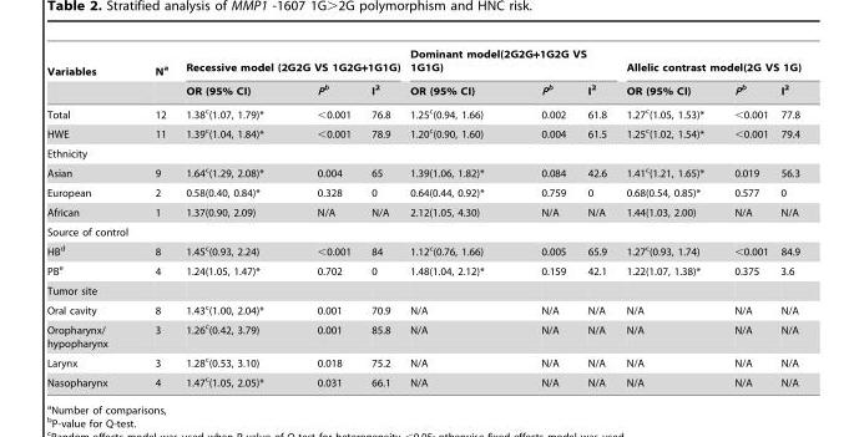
<table><thead><tr><td rowspan="2">Variables</td><td rowspan="2">N<sup>a</sup></td><td colspan="3">Recessive model (2G2G VS 1G2G+1G1G)</td><td colspan="3">Dominant model(2G2G+1G2G VS 1G1G)</td><td colspan="3">Allelic contrast model(2G VS 1G)</td></tr><tr><td>OR (95% CI)</td><td>Pb</td><td>I<sup>2</sup></td><td>OR (95% CI)</td><td>Pb</td><td>I<sup>2</sup></td><td>OR (95% CI)</td><td>Pb</td><td>I<sup>2</sup></td></tr></thead><tbody><tr><td>Total</td><td>12</td><td>1.38<sup>c</sup>(1.07, 1.79)*</td><td>&lt;0.001</td><td>76.8</td><td>1.25<sup>c</sup>(0.94, 1.66)</td><td>0.002</td><td>61.8</td><td>1.27<sup>c</sup>(1.05, 1.53)*</td><td>&lt;0.001</td><td>77.8</td></tr><tr><td>HWE</td><td>11</td><td>1.39<sup>c</sup>(1.04, 1.84)*</td><td>&lt;0.001</td><td>78.9</td><td>1.20<sup>c</sup>(0.90, 1.60)</td><td>0.004</td><td>61.5</td><td>1.25<sup>c</sup>(1.02, 1.54)*</td><td>&lt;0.001</td><td>79.4</td></tr><tr><td colspan="11">Ethnicity</td></tr><tr><td>Asian</td><td>9</td><td>1.64<sup>c</sup>(1.29, 2.08)*</td><td>0.004</td><td>65</td><td>1.39(1.06, 1.82)*</td><td>0.084</td><td>42.6</td><td>1.41<sup>c</sup>(1.21, 1.65)*</td><td>0.019</td><td>56.3</td></tr><tr><td>European</td><td>2</td><td>0.58(0.40, 0.84)*</td><td>0.328</td><td>0</td><td>0.64(0.44, 0.92)*</td><td>0.759</td><td>0</td><td>0.68(0.54, 0.85)*</td><td>0.577</td><td>0</td></tr><tr><td>African</td><td>1</td><td>1.37(0.90, 2.09)</td><td>N/A</td><td>N/A</td><td>2.12(1.05, 4.30)</td><td>N/A</td><td>N/A</td><td>1.44(1.03, 2.00)</td><td>N/A</td><td>N/A</td></tr><tr><td colspan="11">Source of control</td></tr><tr><td>HB<sup>d</sup></td><td>8</td><td>1.45<sup>c</sup>(0.93, 2.24)</td><td>&lt;0.001</td><td>84</td><td>1.12<sup>c</sup>(0.76, 1.66)</td><td>0.005</td><td>65.9</td><td>1.27<sup>c</sup>(0.93, 1.74)</td><td>&lt;0.001</td><td>84.9</td></tr><tr><td>PB<sup>e</sup></td><td>4</td><td>1.24(1.05, 1.47)*</td><td>0.702</td><td>0</td><td>1.48(1.04, 2.12)*</td><td>0.159</td><td>42.1</td><td>1.22(1.07, 1.38)*</td><td>0.375</td><td>3.6</td></tr><tr><td colspan="11">Tumor site</td></tr><tr><td>Oral cavity</td><td>8</td><td>1.43<sup>c</sup>(1.00, 2.04)*</td><td>0.001</td><td>70.9</td><td>N/A</td><td>N/A</td><td>N/A</td><td>N/A</td><td>N/A</td><td>N/A</td></tr><tr><td>Oropharynx/ hypopharynx</td><td>3</td><td>1.26<sup>c</sup>(0.42, 3.79)</td><td>0.001</td><td>85.8</td><td>N/A</td><td>N/A</td><td>N/A</td><td>N/A</td><td>N/A</td><td>N/A</td></tr><tr><td>Larynx</td><td>3</td><td>1.28<sup>c</sup>(0.53, 3.10)</td><td>0.018</td><td>75.2</td><td>N/A</td><td>N/A</td><td>N/A</td><td>N/A</td><td>N/A</td><td>N/A</td></tr><tr><td>Nasopharynx</td><td>4</td><td>1.47<sup>c</sup>(1.05, 2.05)*</td><td>0.031</td><td>66.1</td><td>N/A</td><td>N/A</td><td>N/A</td><td>N/A</td><td>N/A</td><td>N/A</td></tr></tbody></table>